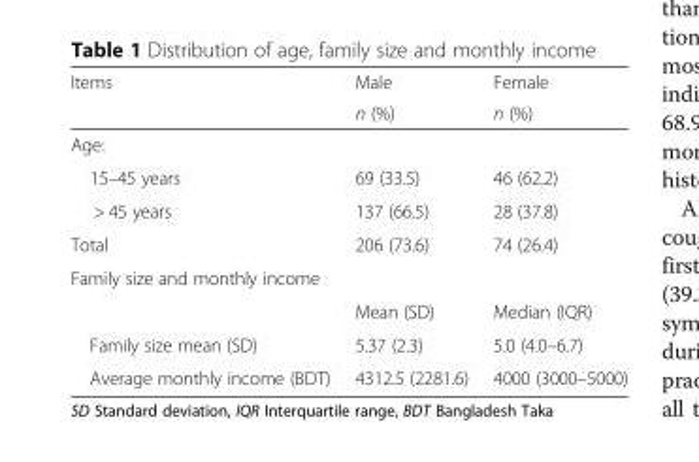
<table><thead><tr><td rowspan="2">Items</td><td rowspan="2">Male n (%)</td><td rowspan="2">Female n (%)</td></tr><tr></tr></thead><tbody><tr><td colspan="3">Age:</td></tr><tr><td>15–45 years</td><td>69 (33.5)</td><td>46 (62.2)</td></tr><tr><td>&gt; 45 years</td><td>137 (66.5)</td><td>28 (37.8)</td></tr><tr><td>Total</td><td>206 (73.6)</td><td>74 (26.4)</td></tr><tr><td colspan="3">Family size and monthly income</td></tr><tr><td></td><td>Mean (SD)</td><td>Median (IQR)</td></tr><tr><td>Family size mean (SD)</td><td>5.37 (2.3)</td><td>5.0 (4.0–6.7)</td></tr><tr><td>Average monthly income (BDT)</td><td>4312.5 (2281.6)</td><td>4000 (3000–5000)</td></tr></tbody></table>